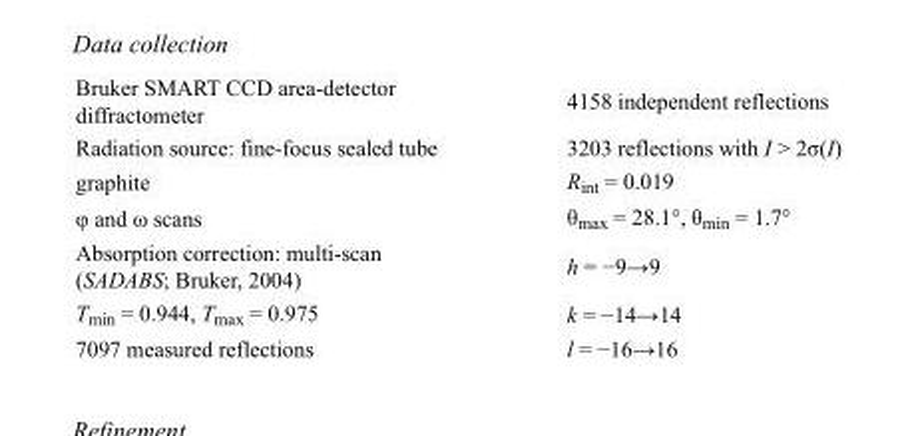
<table><tbody><tr><td>Bruker SMART CCD area-detector diffractometer</td><td>4158 independent reflections</td></tr><tr><td>Radiation source: fine-focus sealed tube</td><td>3203 reflections with I &gt; 2σ(I)</td></tr><tr><td>graphite</td><td>R<sub>int</sub> = 0.019</td></tr><tr><td>φ and ω scans</td><td>θ<sub>max</sub> = 28.1°, θ<sub>min</sub> = 1.7°</td></tr><tr><td>Absorption correction: multi-scan (SADABS; Bruker, 2004)</td><td>h = −9→9</td></tr><tr><td>T<sub>min</sub> = 0.944, T<sub>max</sub> = 0.975</td><td>k = −14→14</td></tr><tr><td>7097 measured reflections</td><td>l = −16→16</td></tr></tbody></table>